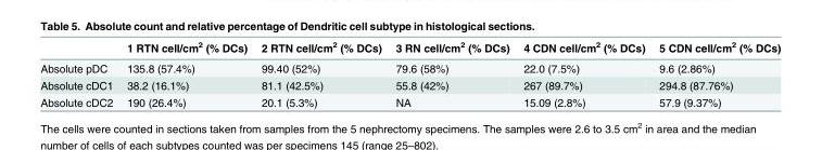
<table><thead><tr><td></td><td>1 RTN cell/cm<sup>2</sup> (% DCs)</td><td>2 RTN cell/cm<sup>2</sup> (% DCs)</td><td>3 RN cell/cm<sup>2</sup> (% DCs)</td><td>4 CDN cell/cm<sup>2</sup> (% DCs)</td><td>5 CDN cell/cm<sup>2</sup> (% DCs)</td></tr></thead><tbody><tr><td>Absolute pDC</td><td>135.8 (57.4%)</td><td>99.40 (52%)</td><td>79.6 (58%)</td><td>22.0 (7.5%)</td><td>9.6 (2.86%)</td></tr><tr><td>Absolute cDC1</td><td>38.2 (16.1%)</td><td>81.1 (42.5%)</td><td>55.8 (42%)</td><td>267 (89.7%)</td><td>294.8 (87.76%)</td></tr><tr><td>Absolute cDC2</td><td>190 (26.4%)</td><td>20.1 (5.3%)</td><td>NA</td><td>15.09 (2.8%)</td><td>57.9 (9.37%)</td></tr></tbody></table>